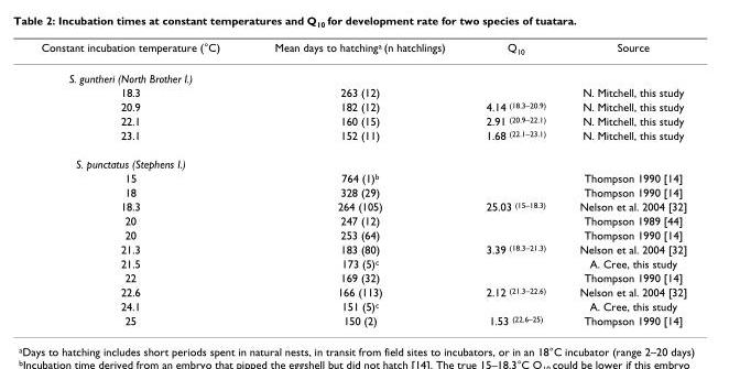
<table><thead><tr><td>Constant incubation temperature (°C)</td><td>Mean days to hatching<sup>a</sup> (n hatchlings)</td><td>Q<sub>10</sub></td><td>Source</td></tr></thead><tbody><tr><td colspan="4">S. guntheri (North Brother I.)</td></tr><tr><td>18.3</td><td>263 (12)</td><td></td><td>N. Mitchell, this study</td></tr><tr><td>20.9</td><td>182 (12)</td><td>4.14 <sup>(18.3–20.9)</sup></td><td>N. Mitchell, this study</td></tr><tr><td>22.1</td><td>160 (15)</td><td>2.91 <sup>(20.9–22.1)</sup></td><td>N. Mitchell, this study</td></tr><tr><td>23.1</td><td>152 (11)</td><td>1.68 <sup>(22.1–23.1)</sup></td><td>N. Mitchell, this study</td></tr><tr><td colspan="4">S. punctatus (Stephens I.)</td></tr><tr><td>15</td><td>764 (1)<sup>b</sup></td><td></td><td>Thompson 1990 [14]</td></tr><tr><td>18</td><td>328 (29)</td><td></td><td>Thompson 1990 [14]</td></tr><tr><td>18.3</td><td>264 (105)</td><td>25.03 <sup>(15–18.3)</sup></td><td>Nelson et al. 2004 [32]</td></tr><tr><td>20</td><td>247 (12)</td><td></td><td>Thompson 1989 [44]</td></tr><tr><td>20</td><td>253 (64)</td><td></td><td>Thompson 1990 [14]</td></tr><tr><td>21.3</td><td>183 (80)</td><td>3.39 <sup>(18.3–21.3)</sup></td><td>Nelson et al. 2004 [32]</td></tr><tr><td>21.5</td><td>173 (5)<sup>c</sup></td><td></td><td>A. Cree, this study</td></tr><tr><td>22</td><td>169 (32)</td><td></td><td>Thompson 1990 [14]</td></tr><tr><td>22.6</td><td>166 (113)</td><td>2.12 <sup>(21.3–22.6)</sup></td><td>Nelson et al. 2004 [32]</td></tr><tr><td>24.1</td><td>151 (5)<sup>c</sup></td><td></td><td>A. Cree, this study</td></tr><tr><td>25</td><td>150 (2)</td><td>1.53 <sup>(22.6–25)</sup></td><td>Thompson 1990 [14]</td></tr></tbody></table>